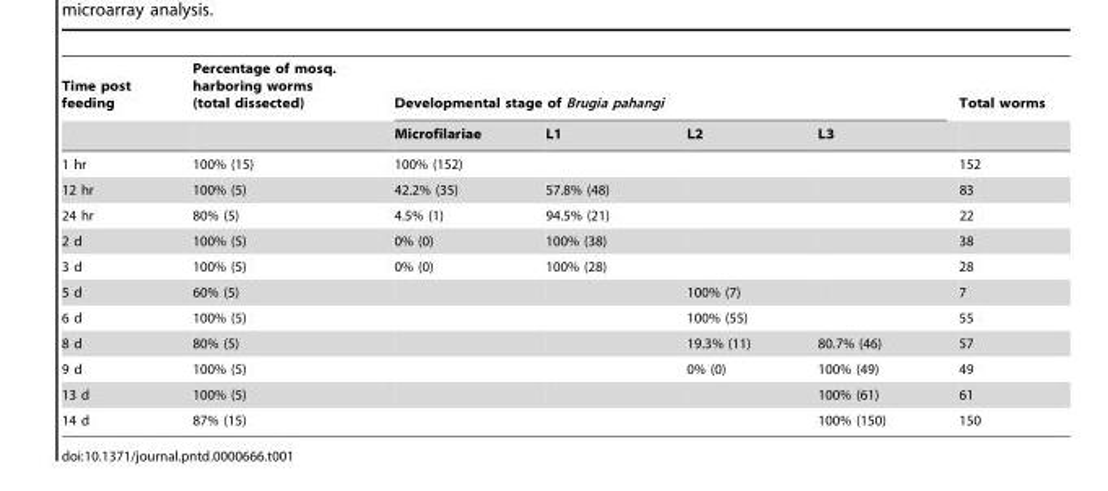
<table><thead><tr><td rowspan="2">Time post feeding</td><td rowspan="2">Percentage of mosq. harboring worms (total dissected)</td><td colspan="4">Developmental stage of Brugia pahangi</td><td rowspan="2">Total worms</td></tr><tr><td>Microfilariae</td><td>L1</td><td>L2</td><td>L3</td></tr></thead><tbody><tr><td>1 hr</td><td>100% (15)</td><td>100% (152)</td><td></td><td></td><td></td><td>152</td></tr><tr><td>12 hr</td><td>100% (5)</td><td>42.2% (35)</td><td>57.8% (48)</td><td></td><td></td><td>83</td></tr><tr><td>24 hr</td><td>80% (5)</td><td>4.5% (1)</td><td>94.5% (21)</td><td></td><td></td><td>22</td></tr><tr><td>2 d</td><td>100% (5)</td><td>0% (0)</td><td>100% (38)</td><td></td><td></td><td>38</td></tr><tr><td>3 d</td><td>100% (5)</td><td>0% (0)</td><td>100% (28)</td><td></td><td></td><td>28</td></tr><tr><td>5 d</td><td>60% (5)</td><td></td><td></td><td>100% (7)</td><td></td><td>7</td></tr><tr><td>6 d</td><td>100% (5)</td><td></td><td></td><td>100% (55)</td><td></td><td>55</td></tr><tr><td>8 d</td><td>80% (5)</td><td></td><td></td><td>19.3% (11)</td><td>80.7% (46)</td><td>57</td></tr><tr><td>9 d</td><td>100% (5)</td><td></td><td></td><td>0% (0)</td><td>100% (49)</td><td>49</td></tr><tr><td>13 d</td><td>100% (5)</td><td></td><td></td><td></td><td>100% (61)</td><td>61</td></tr><tr><td>14 d</td><td>87% (15)</td><td></td><td></td><td></td><td>100% (150)</td><td>150</td></tr></tbody></table>